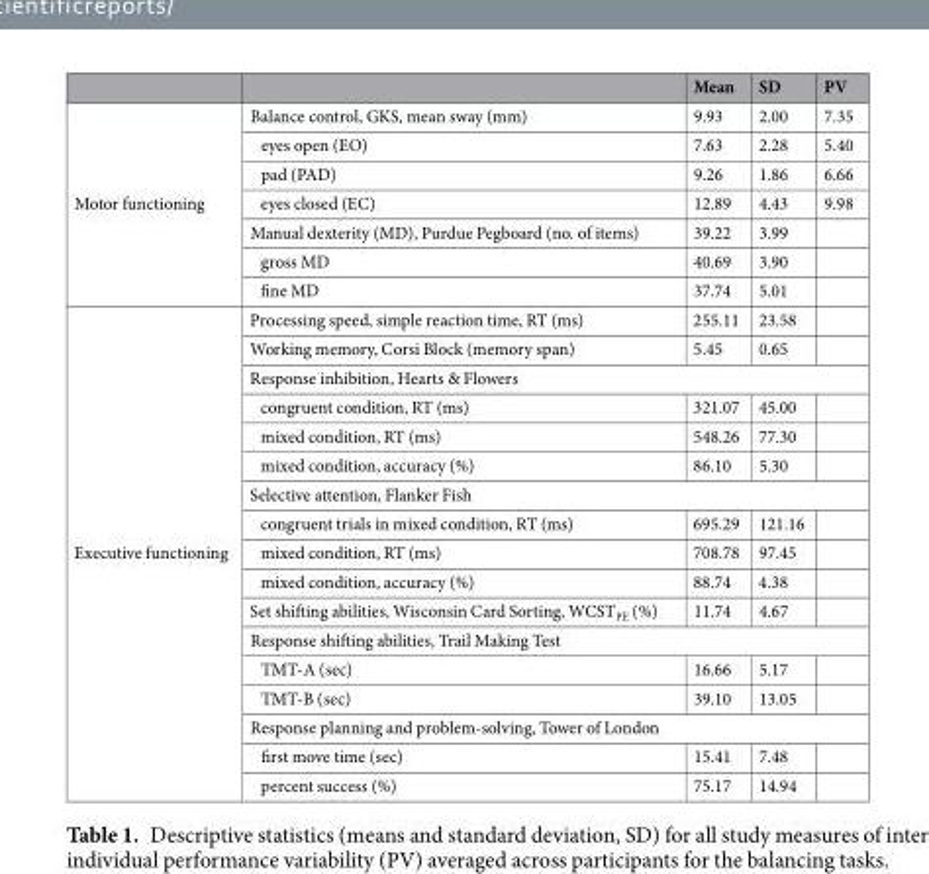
<table><thead><tr><td></td><td></td><td>Mean</td><td>SD</td><td>PV</td></tr></thead><tbody><tr><td rowspan="7">Motor functioning</td><td>Balance control, GKS, mean sway (mm)</td><td>9.93</td><td>2.00</td><td>7.35</td></tr><tr><td>eyes open (EO)</td><td>7.63</td><td>2.28</td><td>5.40</td></tr><tr><td>pad (PAD)</td><td>9.26</td><td>1.86</td><td>6.66</td></tr><tr><td>eyes closed (EC)</td><td>12.89</td><td>4.43</td><td>9.98</td></tr><tr><td>Manual dexterity (MD), Purdue Pegboard (no. of items)</td><td>39.22</td><td>3.99</td><td></td></tr><tr><td>gross MD</td><td>40.69</td><td>3.90</td><td></td></tr><tr><td>fine MD</td><td>37.74</td><td>5.01</td><td></td></tr><tr><td rowspan="17">Executive functioning</td><td>Processing speed, simple reaction time, RT (ms)</td><td>255.11</td><td>23.58</td><td></td></tr><tr><td>Working memory, Corsi Block (memory span)</td><td>5.45</td><td>0.65</td><td></td></tr><tr><td colspan="4">Response inhibition, Hearts &amp; Flowers</td></tr><tr><td>congruent condition, RT (ms)</td><td>321.07</td><td>45.00</td><td></td></tr><tr><td>mixed condition, RT (ms)</td><td>548.26</td><td>77.30</td><td></td></tr><tr><td>mixed condition, accuracy (%)</td><td>86.10</td><td>5.30</td><td></td></tr><tr><td colspan="4">Selective attention, Flanker Fish</td></tr><tr><td>congruent trials in mixed condition, RT (ms)</td><td>695.29</td><td>121.16</td><td></td></tr><tr><td>mixed condition, RT (ms)</td><td>708.78</td><td>97.45</td><td></td></tr><tr><td>mixed condition, accuracy (%)</td><td>88.74</td><td>4.38</td><td></td></tr><tr><td>Set shifting abilities, Wisconsin Card Sorting, WCST<sub>PE</sub> (%)</td><td>11.74</td><td>4.67</td><td></td></tr><tr><td colspan="4">Response shifting abilities, Trail Making Test</td></tr><tr><td>TMT-A (sec)</td><td>16.66</td><td>5.17</td><td></td></tr><tr><td>TMT-B (sec)</td><td>39.10</td><td>13.05</td><td></td></tr><tr><td colspan="4">Response planning and problem-solving, Tower of London</td></tr><tr><td>first move time (sec)</td><td>15.41</td><td>7.48</td><td></td></tr><tr><td>percent success (%)</td><td>75.17</td><td>14.94</td><td></td></tr></tbody></table>